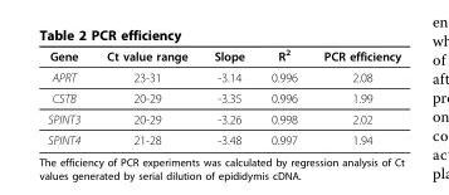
<table><thead><tr><td>Gene</td><td>Ct value range</td><td>Slope</td><td>R<sup>2</sup></td><td>PCR efficiency</td></tr></thead><tbody><tr><td>APRT</td><td>23-31</td><td>-3.14</td><td>0.996</td><td>2.08</td></tr><tr><td>CSTB</td><td>20-29</td><td>-3.35</td><td>0.996</td><td>1.99</td></tr><tr><td>SPINT3</td><td>20-29</td><td>-3.26</td><td>0.998</td><td>2.02</td></tr><tr><td>SPINT4</td><td>21-28</td><td>-3.48</td><td>0.997</td><td>1.94</td></tr></tbody></table>